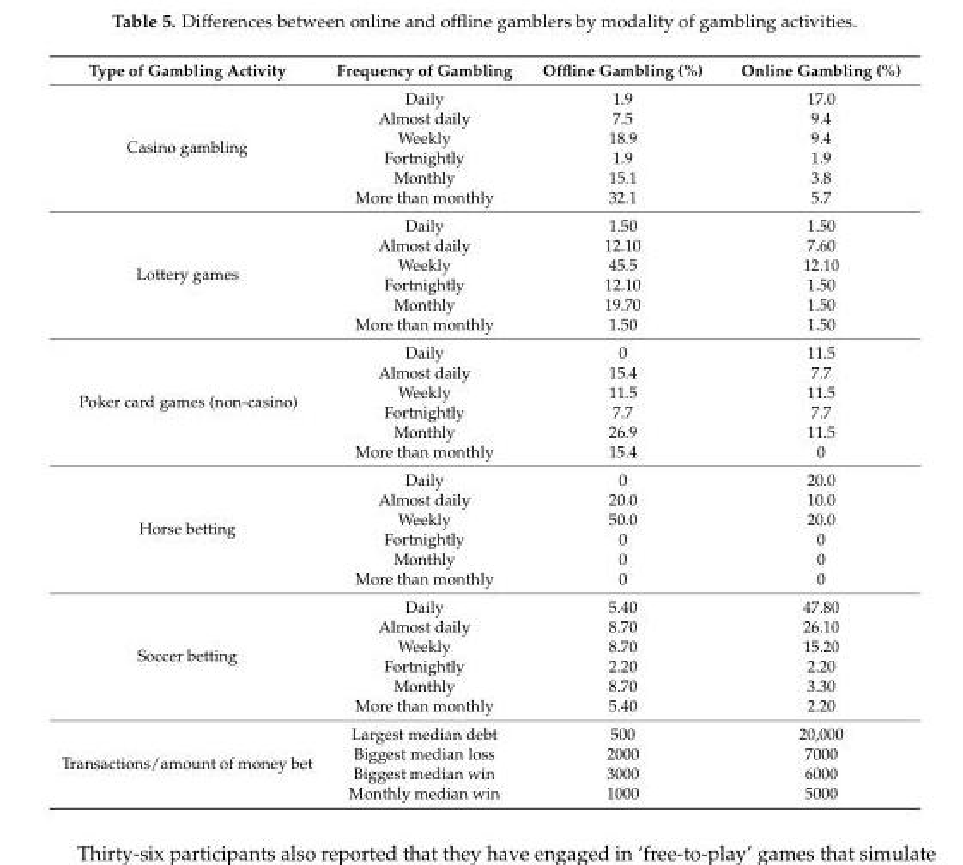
<table><thead><tr><td>Type of Gambling Activity</td><td>Frequency of Gambling</td><td>Offline Gambling (%)</td><td>Online Gambling (%)</td></tr></thead><tbody><tr><td rowspan="6">Casino gambling</td><td>Daily</td><td>1.9</td><td>17.0</td></tr><tr><td>Almost daily</td><td>7.5</td><td>9.4</td></tr><tr><td>Weekly</td><td>18.9</td><td>9.4</td></tr><tr><td>Fortnightly</td><td>1.9</td><td>1.9</td></tr><tr><td>Monthly</td><td>15.1</td><td>3.8</td></tr><tr><td>More than monthly</td><td>32.1</td><td>5.7</td></tr><tr><td rowspan="6">Lottery games</td><td>Daily</td><td>1.50</td><td>1.50</td></tr><tr><td>Almost daily</td><td>12.10</td><td>7.60</td></tr><tr><td>Weekly</td><td>45.5</td><td>12.10</td></tr><tr><td>Fortnightly</td><td>12.10</td><td>1.50</td></tr><tr><td>Monthly</td><td>19.70</td><td>1.50</td></tr><tr><td>More than monthly</td><td>1.50</td><td>1.50</td></tr><tr><td rowspan="6">Poker card games (non-casino)</td><td>Daily</td><td>0</td><td>11.5</td></tr><tr><td>Almost daily</td><td>15.4</td><td>7.7</td></tr><tr><td>Weekly</td><td>11.5</td><td>11.5</td></tr><tr><td>Fortnightly</td><td>7.7</td><td>7.7</td></tr><tr><td>Monthly</td><td>26.9</td><td>11.5</td></tr><tr><td>More than monthly</td><td>15.4</td><td>0</td></tr><tr><td rowspan="6">Horse betting</td><td>Daily</td><td>0</td><td>20.0</td></tr><tr><td>Almost daily</td><td>20.0</td><td>10.0</td></tr><tr><td>Weekly</td><td>50.0</td><td>20.0</td></tr><tr><td>Fortnightly</td><td>0</td><td>0</td></tr><tr><td>Monthly</td><td>0</td><td>0</td></tr><tr><td>More than monthly</td><td>0</td><td>0</td></tr><tr><td rowspan="6">Soccer betting</td><td>Daily</td><td>5.40</td><td>47.80</td></tr><tr><td>Almost daily</td><td>8.70</td><td>26.10</td></tr><tr><td>Weekly</td><td>8.70</td><td>15.20</td></tr><tr><td>Fortnightly</td><td>2.20</td><td>2.20</td></tr><tr><td>Monthly</td><td>8.70</td><td>3.30</td></tr><tr><td>More than monthly</td><td>5.40</td><td>2.20</td></tr><tr><td rowspan="4">Transactions/amount of money bet</td><td>Largest median debt</td><td>500</td><td>20,000</td></tr><tr><td>Biggest median loss</td><td>2000</td><td>7000</td></tr><tr><td>Biggest median win</td><td>3000</td><td>6000</td></tr><tr><td>Monthly median win</td><td>1000</td><td>5000</td></tr></tbody></table>